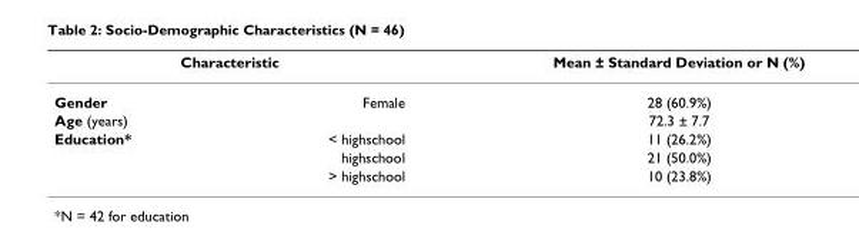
<table><thead><tr><td colspan="2">Characteristic</td><td rowspan="2">Mean ± Standard Deviation or N (%) 28 (60.9%)</td></tr><tr><td>Gender</td><td>Female</td></tr></thead><tbody><tr><td>Age (years)</td><td></td><td>72.3 ± 7.7</td></tr><tr><td rowspan="3">Education*</td><td>&lt; highschool</td><td>11 (26.2%)</td></tr><tr><td>highschool</td><td>21 (50.0%)</td></tr><tr><td>&gt; highschool</td><td>10 (23.8%)</td></tr></tbody></table>